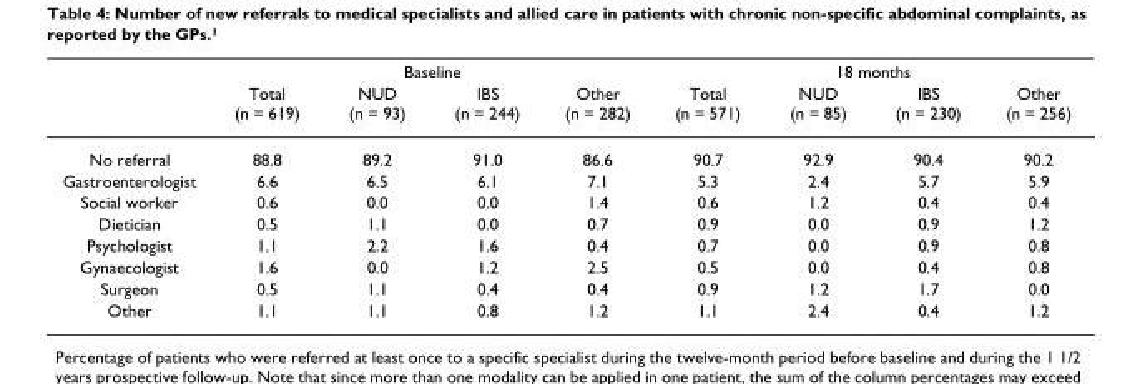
<table><thead><tr><td rowspan="2"></td><td colspan="4">Baseline</td><td colspan="4">18 months</td></tr><tr><td>Total (n = 619)</td><td>NUD (n = 93)</td><td>IBS (n = 244)</td><td>Other (n = 282)</td><td>Total (n = 571)</td><td>NUD (n = 85)</td><td>IBS (n = 230)</td><td>Other (n = 256)</td></tr></thead><tbody><tr><td>No referral</td><td>88.8</td><td>89.2</td><td>91.0</td><td>86.6</td><td>90.7</td><td>92.9</td><td>90.4</td><td>90.2</td></tr><tr><td>Gastroenterologist</td><td>6.6</td><td>6.5</td><td>6.1</td><td>7.1</td><td>5.3</td><td>2.4</td><td>5.7</td><td>5.9</td></tr><tr><td>Social worker</td><td>0.6</td><td>0.0</td><td>0.0</td><td>1.4</td><td>0.6</td><td>1.2</td><td>0.4</td><td>0.4</td></tr><tr><td>Dietician</td><td>0.5</td><td>1.1</td><td>0.0</td><td>0.7</td><td>0.9</td><td>0.0</td><td>0.9</td><td>1.2</td></tr><tr><td>Psychologist</td><td>1.1</td><td>2.2</td><td>1.6</td><td>0.4</td><td>0.7</td><td>0.0</td><td>0.9</td><td>0.8</td></tr><tr><td>Gynaecologist</td><td>1.6</td><td>0.0</td><td>1.2</td><td>2.5</td><td>0.5</td><td>0.0</td><td>0.4</td><td>0.8</td></tr><tr><td>Surgeon</td><td>0.5</td><td>1.1</td><td>0.4</td><td>0.4</td><td>0.9</td><td>1.2</td><td>1.7</td><td>0.0</td></tr><tr><td>Other</td><td>1.1</td><td>1.1</td><td>0.8</td><td>1.2</td><td>1.1</td><td>2.4</td><td>0.4</td><td>1.2</td></tr></tbody></table>